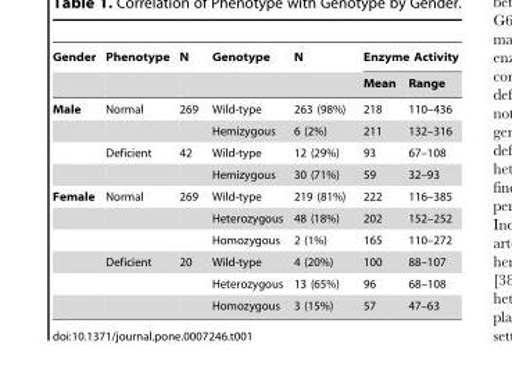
<table><thead><tr><td rowspan="2">Gender</td><td rowspan="2">Phenotype</td><td rowspan="2">N</td><td rowspan="2">Genotype</td><td rowspan="2">N</td><td colspan="2">Enzyme Activity</td></tr><tr><td>Mean</td><td>Range</td></tr></thead><tbody><tr><td rowspan="4">Male</td><td>Normal</td><td>269</td><td>Wild-type</td><td>263 (98%)</td><td>218</td><td>110–436</td></tr><tr><td></td><td></td><td>Hemizygous</td><td>6 (2%)</td><td>211</td><td>132–316</td></tr><tr><td>Deficient</td><td>42</td><td>Wild-type</td><td>12 (29%)</td><td>93</td><td>67–108</td></tr><tr><td></td><td></td><td>Hemizygous</td><td>30 (71%)</td><td>59</td><td>32–93</td></tr><tr><td rowspan="6">Female</td><td>Normal</td><td>269</td><td>Wild-type</td><td>219 (81%)</td><td>222</td><td>116–385</td></tr><tr><td></td><td></td><td>Heterozygous</td><td>48 (18%)</td><td>202</td><td>152–252</td></tr><tr><td></td><td></td><td>Homozygous</td><td>2 (1%)</td><td>165</td><td>110–272</td></tr><tr><td>Deficient</td><td>20</td><td>Wild-type</td><td>4 (20%)</td><td>100</td><td>88–107</td></tr><tr><td></td><td></td><td>Heterozygous</td><td>13 (65%)</td><td>96</td><td>68–108</td></tr><tr><td></td><td></td><td>Homozygous</td><td>3 (15%)</td><td>57</td><td>47–63</td></tr></tbody></table>